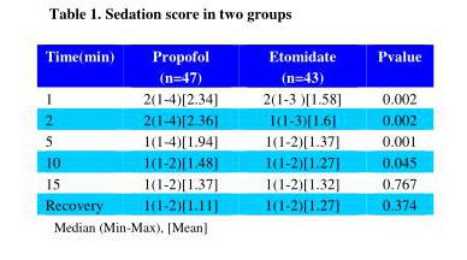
<table><thead><tr><td>Pvalue</td><td>Etomidate (n=43)</td><td>Propofol (n=47)</td><td>Time(min)</td></tr></thead><tbody><tr><td>0.002</td><td>2(1-3 )[1.58]</td><td>2(1-4)[2.34]</td><td>1</td></tr><tr><td>0.002</td><td>1(1-3)[1.6]</td><td>2(1-4)[2.36]</td><td>2</td></tr><tr><td>0.001</td><td>1(1-2)[1.37]</td><td>1(1-4)[1.94]</td><td>5</td></tr><tr><td>0.045</td><td>1(1-2)[1.27]</td><td>1(1-2)[1.48]</td><td>10</td></tr><tr><td>0.767</td><td>1(1-2)[1.32]</td><td>1(1-2)[1.37]</td><td>15</td></tr><tr><td>0.374</td><td>1(1-2)[1.27]</td><td>1(1-2)[1.11]</td><td>Recovery</td></tr></tbody></table>